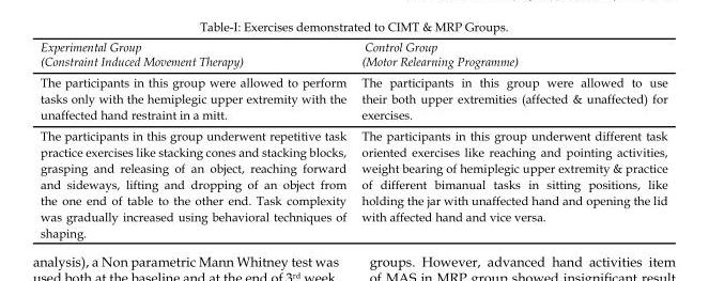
<table><thead><tr><td>Experimental Group (Constraint Induced Movement Therapy)</td><td>Control Group (Motor Relearning Programme)</td></tr></thead><tbody><tr><td>The participants in this group were allowed to perform tasks only with the hemiplegic upper extremity with the unaffected hand restraint in a mitt.</td><td>The participants in this group were allowed to use their both upper extremities (affected &amp; unaffected) for exercises.</td></tr><tr><td>The participants in this group underwent repetitive task practice exercises like stacking cones and stacking blocks, grasping and releasing of an object, reaching forward and sideways, lifting and dropping of an object from the one end of table to the other end. Task complexity was gradually increased using behavioral techniques of shaping.</td><td>The participants in this group underwent different task oriented exercises like reaching and pointing activities, weight bearing of hemiplegic upper extremity &amp; practice of different bimanual tasks in sitting positions, like holding the jar with unaffected hand and opening the lid with affected hand and vice versa.</td></tr></tbody></table>